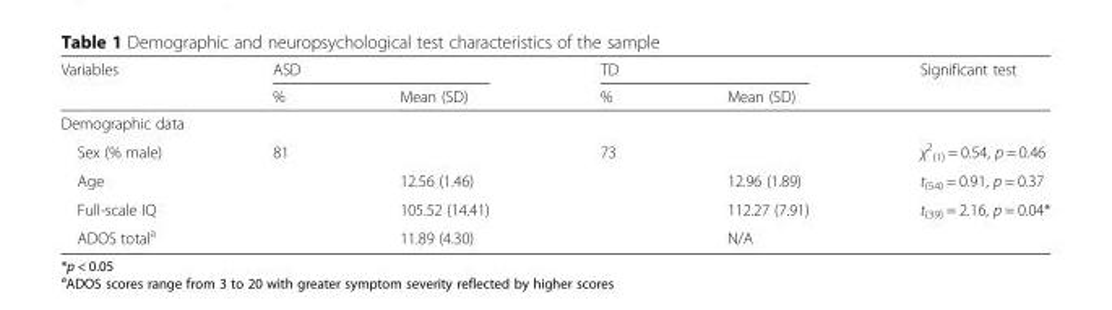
<table><thead><tr><td rowspan="2">Variables</td><td colspan="2">ASD</td><td colspan="2">TD</td><td rowspan="2">Significant test</td></tr><tr><td>%</td><td>Mean (SD)</td><td>%</td><td>Mean (SD)</td></tr></thead><tbody><tr><td colspan="6">Demographic data</td></tr><tr><td>Sex (% male)</td><td>81</td><td></td><td>73</td><td></td><td>χ<sup>2</sup> <sub>(1)</sub> = 0.54, p = 0.46</td></tr><tr><td>Age</td><td></td><td>12.56 (1.46)</td><td></td><td>12.96 (1.89)</td><td>t<sub>(54)</sub> = 0.91, p = 0.37</td></tr><tr><td>Full-scale IQ</td><td></td><td>105.52 (14.41)</td><td></td><td>112.27 (7.91)</td><td>t<sub>(39)</sub> = 2.16, p = 0.04*</td></tr><tr><td>ADOS total<sup>a</sup></td><td></td><td>11.89 (4.30)</td><td></td><td>N/A</td><td></td></tr></tbody></table>